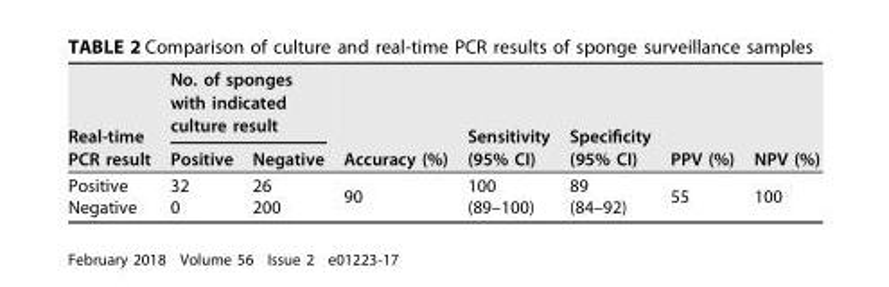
<table><thead><tr><td rowspan="2">Real-time PCR result</td><td colspan="2">No. of sponges with indicated culture result</td><td rowspan="2">Accuracy (%)</td><td rowspan="2">Sensitivity (95% CI)</td><td rowspan="2">Specificity (95% CI)</td><td rowspan="2">PPV (%)</td><td rowspan="2">NPV (%)</td></tr><tr><td>Positive</td><td>Negative</td></tr></thead><tbody><tr><td>Positive</td><td>32</td><td>26</td><td rowspan="2">90</td><td>100</td><td>89</td><td rowspan="2">55</td><td rowspan="2">100</td></tr><tr><td>Negative</td><td>0</td><td>200</td><td>(89–100)</td><td>(84–92)</td></tr></tbody></table>